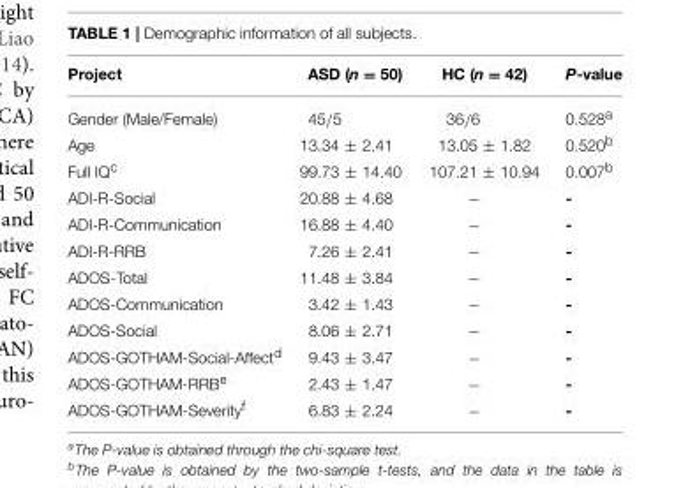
<table><thead><tr><td>Project</td><td>ASD (n = 50)</td><td>HC (n = 42)</td><td>P-value</td></tr></thead><tbody><tr><td>Gender (Male/Female)</td><td>45/5</td><td>36/6</td><td>0.528<sup>a</sup></td></tr><tr><td>Age</td><td>13.34 ± 2.41</td><td>13.05 ± 1.82</td><td>0.520<sup>b</sup></td></tr><tr><td>Full IQ<sup>c</sup></td><td>99.73 ± 14.40</td><td>107.21 ± 10.94</td><td>0.007<sup>b</sup></td></tr><tr><td>ADI-R-Social</td><td>20.88 ± 4.68</td><td>−</td><td>-</td></tr><tr><td>ADI-R-Communication</td><td>16.88 ± 4.40</td><td>−</td><td>-</td></tr><tr><td>ADI-R-RRB</td><td>7.26 ± 2.41</td><td>−</td><td>-</td></tr><tr><td>ADOS-Total</td><td>11.48 ± 3.84</td><td>−</td><td>-</td></tr><tr><td>ADOS-Communication</td><td>3.42 ± 1.43</td><td>−</td><td>-</td></tr><tr><td>ADOS-Social</td><td>8.06 ± 2.71</td><td>−</td><td>-</td></tr><tr><td>ADOS-GOTHAM-Social-Affect<sup>d</sup></td><td>9.43 ± 3.47</td><td>−</td><td>-</td></tr><tr><td>ADOS-GOTHAM-RRB<sup>e</sup></td><td>2.43 ± 1.47</td><td>−</td><td>-</td></tr><tr><td>ADOS-GOTHAM-Severity<sup>f</sup></td><td>6.83 ± 2.24</td><td>−</td><td>-</td></tr></tbody></table>